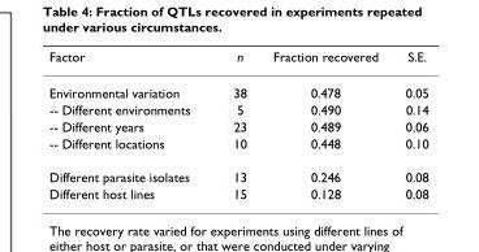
<table><thead><tr><td>Factor</td><td>n</td><td>Fraction recovered</td><td>S.E.</td></tr></thead><tbody><tr><td>Environmental variation</td><td>38</td><td>0.478</td><td>0.05</td></tr><tr><td>-- Different environments</td><td>5</td><td>0.490</td><td>0.14</td></tr><tr><td>-- Different years</td><td>23</td><td>0.489</td><td>0.06</td></tr><tr><td>-- Different locations</td><td>10</td><td>0.448</td><td>0.10</td></tr><tr><td>Different parasite isolates</td><td>13</td><td>0.246</td><td>0.08</td></tr><tr><td>Different host lines</td><td>15</td><td>0.128</td><td>0.08</td></tr></tbody></table>